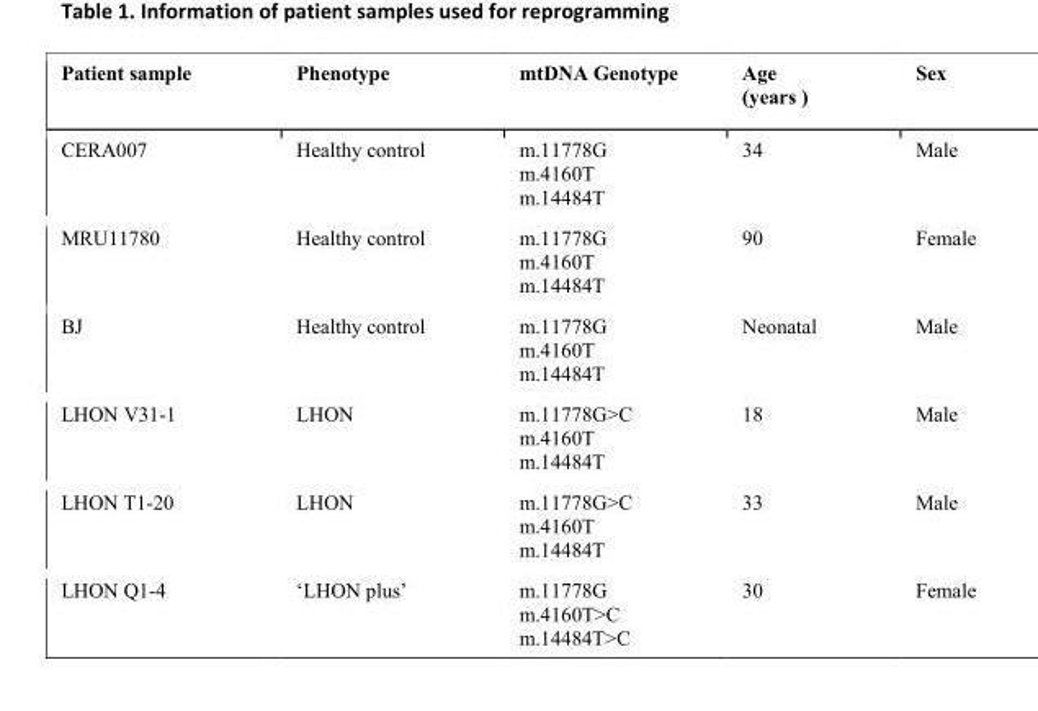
<table><thead><tr><td>Patient sample</td><td>Phenotype</td><td>mtDNA Genotype</td><td>Age (years )</td><td>Sex</td></tr></thead><tbody><tr><td>CERA007</td><td>Healthy control</td><td>m.11778G m.4160T m.14484T</td><td>34</td><td>Male</td></tr><tr><td>MRU11780</td><td>Healthy control</td><td>m.11778G m.4160T m.14484T</td><td>90</td><td>Female</td></tr><tr><td>BJ</td><td>Healthy control</td><td>m.11778G m.4160T m.14484T</td><td>Neonatal</td><td>Male</td></tr><tr><td>LHON V31-1</td><td>LHON</td><td>m.11778G&gt;C m.4160T m.14484T</td><td>18</td><td>Male</td></tr><tr><td>LHON T1-20</td><td>LHON</td><td>m.11778G&gt;C m.4160T m.14484T</td><td>33</td><td>Male</td></tr><tr><td>LHON Q1-4</td><td>‘LHON plus’</td><td>m.11778G m.4160T&gt;C m.14484T&gt;C</td><td>30</td><td>Female</td></tr></tbody></table>